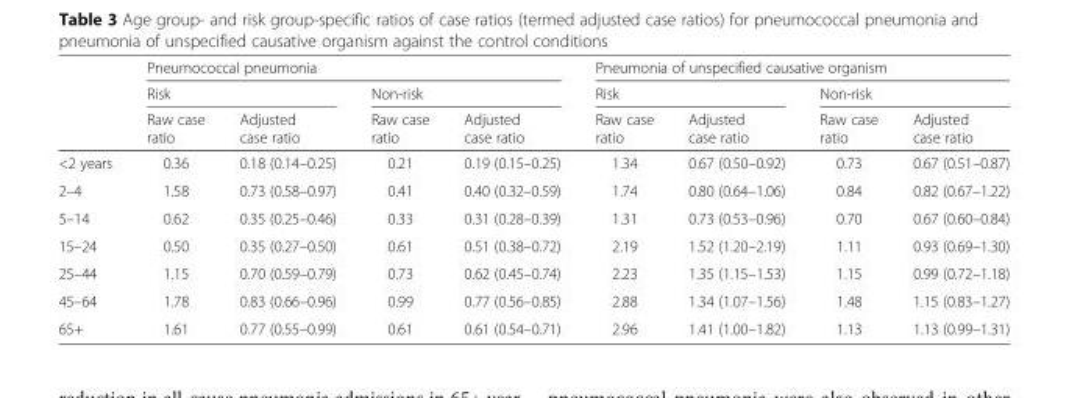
<table><thead><tr><td rowspan="3"></td><td colspan="4">Pneumococcal pneumonia</td><td colspan="4">Pneumonia of unspecified causative organism</td></tr><tr><td colspan="2">Risk</td><td colspan="2">Non-risk</td><td colspan="2">Risk</td><td colspan="2">Non-risk</td></tr><tr><td>Raw case ratio</td><td>Adjusted case ratio</td><td>Raw case ratio</td><td>Adjusted case ratio</td><td>Raw case ratio</td><td>Adjusted case ratio</td><td>Raw case ratio</td><td>Adjusted case ratio</td></tr></thead><tbody><tr><td>&lt;2 years</td><td>0.36</td><td>0.18 (0.14–0.25)</td><td>0.21</td><td>0.19 (0.15–0.25)</td><td>1.34</td><td>0.67 (0.50–0.92)</td><td>0.73</td><td>0.67 (0.51–0.87)</td></tr><tr><td>2–4</td><td>1.58</td><td>0.73 (0.58–0.97)</td><td>0.41</td><td>0.40 (0.32–0.59)</td><td>1.74</td><td>0.80 (0.64–1.06)</td><td>0.84</td><td>0.82 (0.67–1.22)</td></tr><tr><td>5–14</td><td>0.62</td><td>0.35 (0.25–0.46)</td><td>0.33</td><td>0.31 (0.28–0.39)</td><td>1.31</td><td>0.73 (0.53–0.96)</td><td>0.70</td><td>0.67 (0.60–0.84)</td></tr><tr><td>15–24</td><td>0.50</td><td>0.35 (0.27–0.50)</td><td>0.61</td><td>0.51 (0.38–0.72)</td><td>2.19</td><td>1.52 (1.20–2.19)</td><td>1.11</td><td>0.93 (0.69–1.30)</td></tr><tr><td>25–44</td><td>1.15</td><td>0.70 (0.59–0.79)</td><td>0.73</td><td>0.62 (0.45–0.74)</td><td>2.23</td><td>1.35 (1.15–1.53)</td><td>1.15</td><td>0.99 (0.72–1.18)</td></tr><tr><td>45–64</td><td>1.78</td><td>0.83 (0.66–0.96)</td><td>0.99</td><td>0.77 (0.56–0.85)</td><td>2.88</td><td>1.34 (1.07–1.56)</td><td>1.48</td><td>1.15 (0.83–1.27)</td></tr><tr><td>65+</td><td>1.61</td><td>0.77 (0.55–0.99)</td><td>0.61</td><td>0.61 (0.54–0.71)</td><td>2.96</td><td>1.41 (1.00–1.82)</td><td>1.13</td><td>1.13 (0.99–1.31)</td></tr></tbody></table>